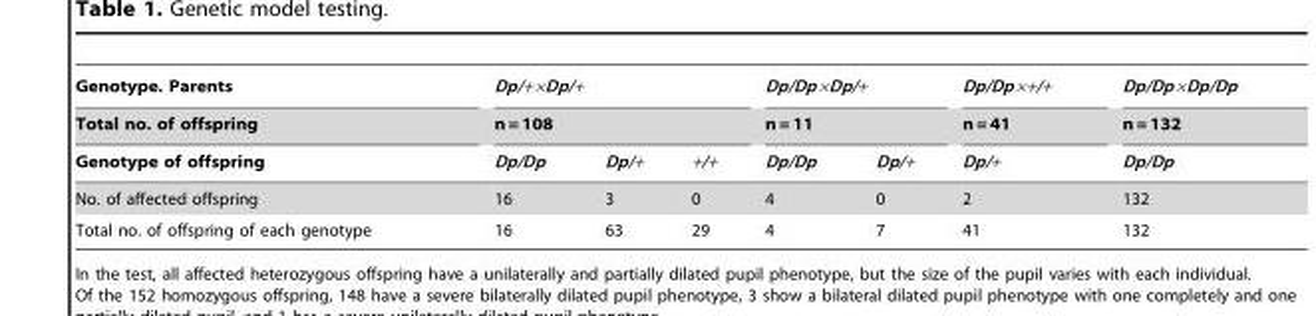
<table><thead><tr><td rowspan="3">Genotype. Parents Total no. of offspring Genotype of offspring</td><td rowspan="2" colspan="3">Dp/+×Dp/+ n = 108</td><td rowspan="2" colspan="2">Dp/Dp×Dp/+ n = 11</td><td rowspan="3">Dp/Dp×+/+ n = 41 Dp/+</td><td rowspan="3">Dp/Dp×Dp/Dp n = 132 Dp/Dp</td></tr><tr></tr><tr><td>Dp/Dp</td><td>Dp/+</td><td>+/+</td><td>Dp/Dp</td><td>Dp/+</td></tr></thead><tbody><tr><td>No. of affected offspring</td><td>16</td><td>3</td><td>0</td><td>4</td><td>0</td><td>2</td><td>132</td></tr><tr><td>Total no. of offspring of each genotype</td><td>16</td><td>63</td><td>29</td><td>4</td><td>7</td><td>41</td><td>132</td></tr></tbody></table>